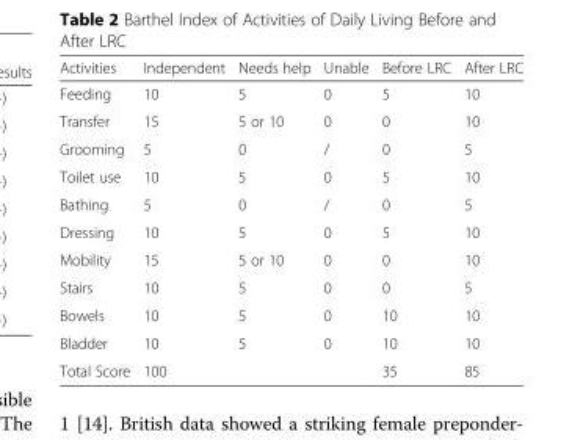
<table><thead><tr><td>Activities</td><td>Independent</td><td>Needs help</td><td>Unable</td><td>Before LRC</td><td>After LRC</td></tr></thead><tbody><tr><td>Feeding</td><td>10</td><td>5</td><td>0</td><td>5</td><td>10</td></tr><tr><td>Transfer</td><td>15</td><td>5 or 10</td><td>0</td><td>0</td><td>10</td></tr><tr><td>Grooming</td><td>5</td><td>0</td><td>/</td><td>0</td><td>5</td></tr><tr><td>Toilet use</td><td>10</td><td>5</td><td>0</td><td>5</td><td>10</td></tr><tr><td>Bathing</td><td>5</td><td>0</td><td>/</td><td>0</td><td>5</td></tr><tr><td>Dressing</td><td>10</td><td>5</td><td>0</td><td>5</td><td>10</td></tr><tr><td>Mobility</td><td>15</td><td>5 or 10</td><td>0</td><td>0</td><td>10</td></tr><tr><td>Stairs</td><td>10</td><td>5</td><td>0</td><td>0</td><td>5</td></tr><tr><td>Bowels</td><td>10</td><td>5</td><td>0</td><td>10</td><td>10</td></tr><tr><td>Bladder</td><td>10</td><td>5</td><td>0</td><td>10</td><td>10</td></tr><tr><td>Total Score</td><td colspan="3">100</td><td>35</td><td>85</td></tr></tbody></table>